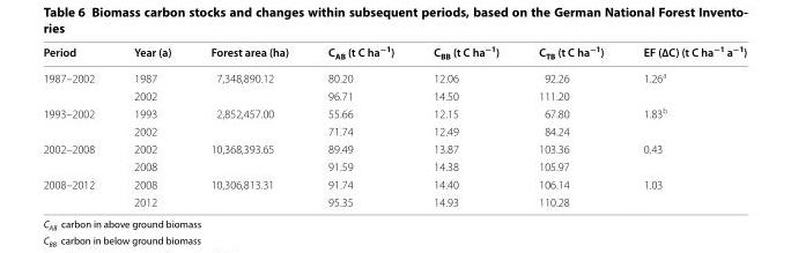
<table><thead><tr><td>Period</td><td>Year (a)</td><td>Forest area (ha)</td><td>C<sub>AB</sub> (t C ha<sup>−1</sup>)</td><td>C<sub>BB</sub> (t C ha<sup>−1</sup>)</td><td>C<sub>TB</sub> (t C ha<sup>−1</sup>)</td><td>EF (∆C) (t C ha<sup>−1</sup> a<sup>−1</sup>)</td></tr></thead><tbody><tr><td rowspan="2">1987–2002</td><td>1987</td><td rowspan="2">7,348,890.12</td><td>80.20</td><td>12.06</td><td>92.26</td><td rowspan="2">1.26<sup>a</sup></td></tr><tr><td>2002</td><td>96.71</td><td>14.50</td><td>111.20</td></tr><tr><td rowspan="2">1993–2002</td><td>1993</td><td rowspan="2">2,852,457.00</td><td>55.66</td><td>12.15</td><td>67.80</td><td rowspan="2">1.83<sup>b</sup></td></tr><tr><td>2002</td><td>71.74</td><td>12.49</td><td>84.24</td></tr><tr><td rowspan="2">2002–2008</td><td>2002</td><td rowspan="2">10,368,393.65</td><td>89.49</td><td>13.87</td><td>103.36</td><td rowspan="2">0.43</td></tr><tr><td>2008</td><td>91.59</td><td>14.38</td><td>105.97</td></tr><tr><td rowspan="2">2008–2012</td><td>2008</td><td rowspan="2">10,306,813.31</td><td>91.74</td><td>14.40</td><td>106.14</td><td rowspan="2">1.03</td></tr><tr><td>2012</td><td>95.35</td><td>14.93</td><td>110.28</td></tr></tbody></table>